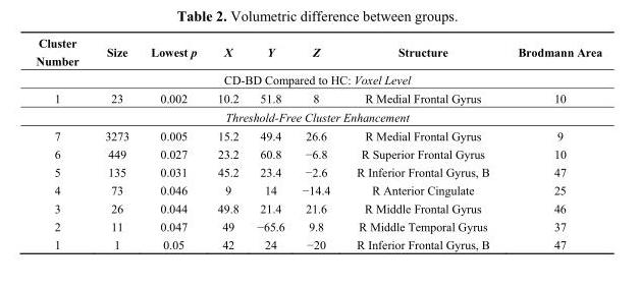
<table><thead><tr><td>Cluster Number</td><td>Size</td><td>Lowest p</td><td>X</td><td>Y</td><td>Z</td><td>Structure</td><td>Brodmann Area</td></tr></thead><tbody><tr><td colspan="8">CD-BD Compared to HC: Voxel Level</td></tr><tr><td>1</td><td>23</td><td>0.002</td><td>10.2</td><td>51.8</td><td>8</td><td>R Medial Frontal Gyrus</td><td>10</td></tr><tr><td colspan="8">Threshold-Free Cluster Enhancement</td></tr><tr><td>7</td><td>3273</td><td>0.005</td><td>15.2</td><td>49.4</td><td>26.6</td><td>R Medial Frontal Gyrus</td><td>9</td></tr><tr><td>6</td><td>449</td><td>0.027</td><td>23.2</td><td>60.8</td><td>−6.8</td><td>R Superior Frontal Gyrus</td><td>10</td></tr><tr><td>5</td><td>135</td><td>0.031</td><td>45.2</td><td>23.4</td><td>−2.6</td><td>R Inferior Frontal Gyrus, B</td><td>47</td></tr><tr><td>4</td><td>73</td><td>0.046</td><td>9</td><td>14</td><td>−14.4</td><td>R Anterior Cingulate</td><td>25</td></tr><tr><td>3</td><td>26</td><td>0.044</td><td>49.8</td><td>21.4</td><td>21.6</td><td>R Middle Frontal Gyrus</td><td>46</td></tr><tr><td>2</td><td>11</td><td>0.047</td><td>49</td><td>−65.6</td><td>9.8</td><td>R Middle Temporal Gyrus</td><td>37</td></tr><tr><td>1</td><td>1</td><td>0.05</td><td>42</td><td>24</td><td>−20</td><td>R Inferior Frontal Gyrus, B</td><td>47</td></tr></tbody></table>